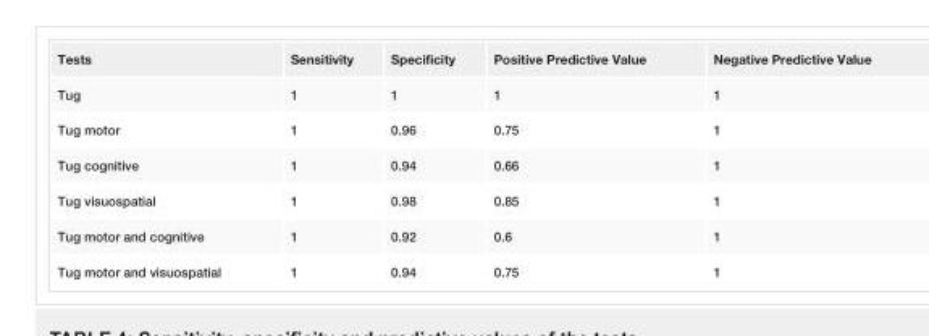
<table><tbody><tr><td>Tests</td><td>Sensitivity</td><td>Specificity</td><td>Positive Predictive Value</td><td>Negative Predictive Value</td></tr><tr><td>Tug</td><td>1</td><td>1</td><td>1</td><td>1</td></tr><tr><td>Tug motor</td><td>1</td><td>0.96</td><td>0.75</td><td>1</td></tr><tr><td>Tug cognitive</td><td>1</td><td>0.94</td><td>0.66</td><td>1</td></tr><tr><td>Tug visuospatial</td><td>1</td><td>0.98</td><td>0.85</td><td>1</td></tr><tr><td>Tug motor and cognitive</td><td>1</td><td>0.92</td><td>0.6</td><td>1</td></tr><tr><td>Tug motor and visuospatial</td><td>1</td><td>0.94</td><td>0.75</td><td>1</td></tr></tbody></table>